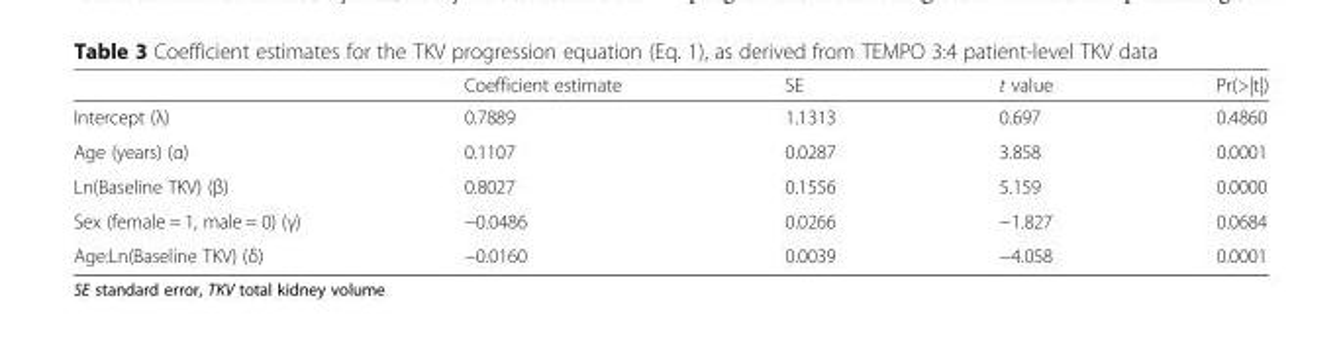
<table><thead><tr><td></td><td>Coefficient estimate</td><td>SE</td><td>t value</td><td>Pr(&gt;|t|)</td></tr></thead><tbody><tr><td>Intercept (λ)</td><td>0.7889</td><td>1.1313</td><td>0.697</td><td>0.4860</td></tr><tr><td>Age (years) (α)</td><td>0.1107</td><td>0.0287</td><td>3.858</td><td>0.0001</td></tr><tr><td>Ln(Baseline TKV) (β)</td><td>0.8027</td><td>0.1556</td><td>5.159</td><td>0.0000</td></tr><tr><td>Sex (female = 1, male = 0) (γ)</td><td>−0.0486</td><td>0.0266</td><td>−1.827</td><td>0.0684</td></tr><tr><td>Age:Ln(Baseline TKV) (δ)</td><td>−0.0160</td><td>0.0039</td><td>−4.058</td><td>0.0001</td></tr></tbody></table>